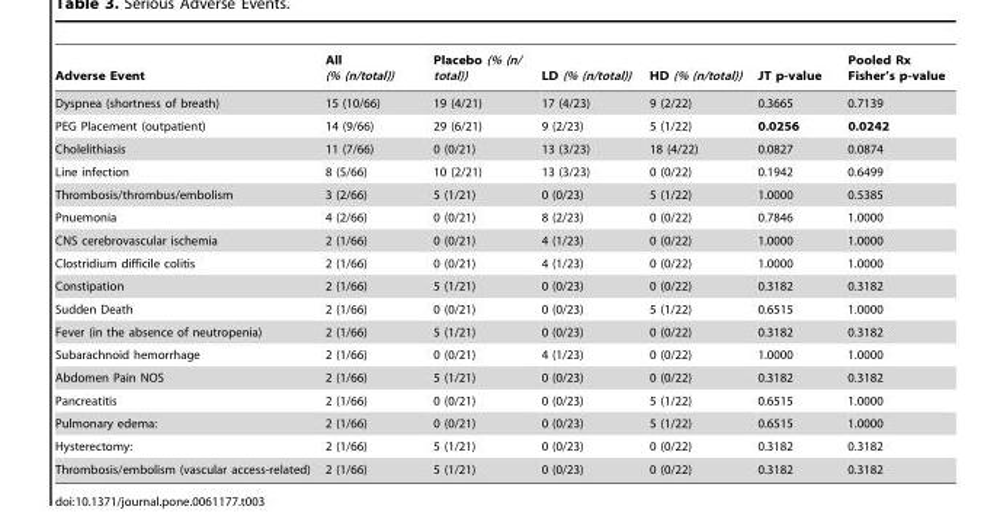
<table><thead><tr><td>Adverse Event</td><td>All (% (n/total))</td><td>Placebo (% (n/ total))</td><td>LD (% (n/total))</td><td>HD (% (n/total))</td><td>JT p-value</td><td>Pooled Rx Fisher’s p-value</td></tr></thead><tbody><tr><td>Dyspnea (shortness of breath)</td><td>15 (10/66)</td><td>19 (4/21)</td><td>17 (4/23)</td><td>9 (2/22)</td><td>0.3665</td><td>0.7139</td></tr><tr><td>PEG Placement (outpatient)</td><td>14 (9/66)</td><td>29 (6/21)</td><td>9 (2/23)</td><td>5 (1/22)</td><td>0.0256</td><td>0.0242</td></tr><tr><td>Cholelithiasis</td><td>11 (7/66)</td><td>0 (0/21)</td><td>13 (3/23)</td><td>18 (4/22)</td><td>0.0827</td><td>0.0874</td></tr><tr><td>Line infection</td><td>8 (5/66)</td><td>10 (2/21)</td><td>13 (3/23)</td><td>0 (0/22)</td><td>0.1942</td><td>0.6499</td></tr><tr><td>Thrombosis/thrombus/embolism</td><td>3 (2/66)</td><td>5 (1/21)</td><td>0 (0/23)</td><td>5 (1/22)</td><td>1.0000</td><td>0.5385</td></tr><tr><td>Pnuemonia</td><td>4 (2/66)</td><td>0 (0/21)</td><td>8 (2/23)</td><td>0 (0/22)</td><td>0.7846</td><td>1.0000</td></tr><tr><td>CNS cerebrovascular ischemia</td><td>2 (1/66)</td><td>0 (0/21)</td><td>4 (1/23)</td><td>0 (0/22)</td><td>1.0000</td><td>1.0000</td></tr><tr><td>Clostridium difficile colitis</td><td>2 (1/66)</td><td>0 (0/21)</td><td>4 (1/23)</td><td>0 (0/22)</td><td>1.0000</td><td>1.0000</td></tr><tr><td>Constipation</td><td>2 (1/66)</td><td>5 (1/21)</td><td>0 (0/23)</td><td>0 (0/22)</td><td>0.3182</td><td>0.3182</td></tr><tr><td>Sudden Death</td><td>2 (1/66)</td><td>0 (0/21)</td><td>0 (0/23)</td><td>5 (1/22)</td><td>0.6515</td><td>1.0000</td></tr><tr><td>Fever (in the absence of neutropenia)</td><td>2 (1/66)</td><td>5 (1/21)</td><td>0 (0/23)</td><td>0 (0/22)</td><td>0.3182</td><td>0.3182</td></tr><tr><td>Subarachnoid hemorrhage</td><td>2 (1/66)</td><td>0 (0/21)</td><td>4 (1/23)</td><td>0 (0/22)</td><td>1.0000</td><td>1.0000</td></tr><tr><td>Abdomen Pain NOS</td><td>2 (1/66)</td><td>5 (1/21)</td><td>0 (0/23)</td><td>0 (0/22)</td><td>0.3182</td><td>0.3182</td></tr><tr><td>Pancreatitis</td><td>2 (1/66)</td><td>0 (0/21)</td><td>0 (0/23)</td><td>5 (1/22)</td><td>0.6515</td><td>1.0000</td></tr><tr><td>Pulmonary edema:</td><td>2 (1/66)</td><td>0 (0/21)</td><td>0 (0/23)</td><td>5 (1/22)</td><td>0.6515</td><td>1.0000</td></tr><tr><td>Hysterectomy:</td><td>2 (1/66)</td><td>5 (1/21)</td><td>0 (0/23)</td><td>0 (0/22)</td><td>0.3182</td><td>0.3182</td></tr><tr><td>Thrombosis/embolism (vascular access-related)</td><td>2 (1/66)</td><td>5 (1/21)</td><td>0 (0/23)</td><td>0 (0/22)</td><td>0.3182</td><td>0.3182</td></tr></tbody></table>